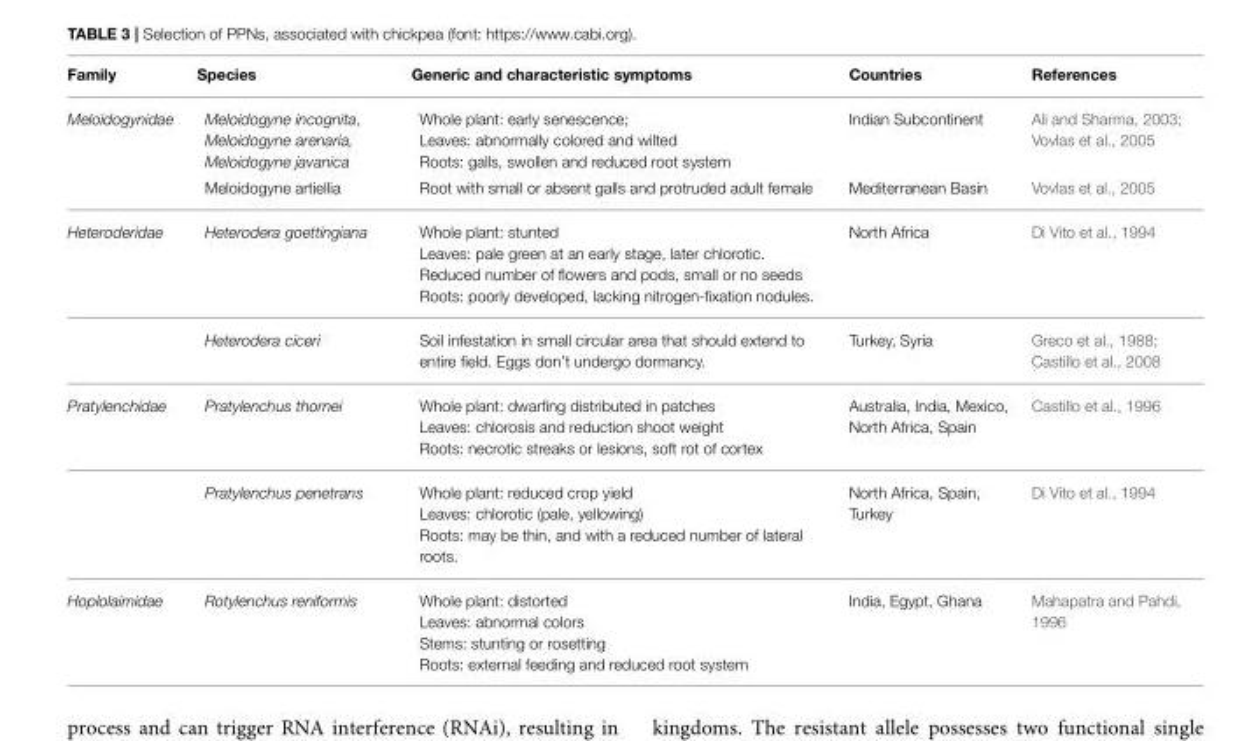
<table><thead><tr><td>Family</td><td>Species</td><td>Generic and characteristic symptoms</td><td>Countries</td><td>References</td></tr></thead><tbody><tr><td rowspan="2">Meloidogynidae</td><td>Meloidogyne incognita, Meloidogyne arenaria, Meloidogyne javanica</td><td>Whole plant: early senescence; Leaves: abnormally colored and wilted Roots: galls, swollen and reduced root system</td><td>Indian Subcontinent</td><td>Ali and Sharma, 2003; Vovlas et al., 2005</td></tr><tr><td>Meloidogyne artiellia</td><td>Root with small or absent galls and protruded adult female</td><td>Mediterranean Basin</td><td>Vovlas et al., 2005</td></tr><tr><td rowspan="2">Heteroderidae</td><td>Heterodera goettingiana</td><td>Whole plant: stunted Leaves: pale green at an early stage, later chlorotic. Reduced number of flowers and pods, small or no seeds Roots: poorly developed, lacking nitrogen-fixation nodules.</td><td>North Africa</td><td>Di Vito et al., 1994</td></tr><tr><td>Heterodera ciceri</td><td>Soil infestation in small circular area that should extend to entire field. Eggs don’t undergo dormancy.</td><td>Turkey, Syria</td><td>Greco et al., 1988; Castillo et al., 2008</td></tr><tr><td rowspan="2">Pratylenchidae</td><td>Pratylenchus thornei</td><td>Whole plant: dwarfing distributed in patches Leaves: chlorosis and reduction shoot weight Roots: necrotic streaks or lesions, soft rot of cortex</td><td>Australia, India, Mexico, North Africa, Spain</td><td>Castillo et al., 1996</td></tr><tr><td>Pratylenchus penetrans</td><td>Whole plant: reduced crop yield Leaves: chlorotic (pale, yellowing) Roots: may be thin, and with a reduced number of lateral roots.</td><td>North Africa, Spain, Turkey</td><td>Di Vito et al., 1994</td></tr><tr><td>Hoplolaimidae</td><td>Rotylenchus reniformis</td><td>Whole plant: distorted Leaves: abnormal colors Stems: stunting or rosetting Roots: external feeding and reduced root system</td><td>India, Egypt, Ghana</td><td>Mahapatra and Pahdi, 1996</td></tr></tbody></table>